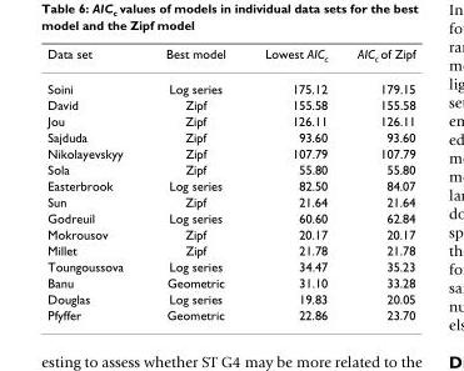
<table><thead><tr><td>Data set</td><td>Best model</td><td>Lowest AIC<sub>c</sub></td><td>AIC<sub>c</sub> of Zipf</td></tr></thead><tbody><tr><td>Soini</td><td>Log series</td><td>175.12</td><td>179.15</td></tr><tr><td>David</td><td>Zipf</td><td>155.58</td><td>155.58</td></tr><tr><td>Jou</td><td>Zipf</td><td>126.11</td><td>126.11</td></tr><tr><td>Sajduda</td><td>Zipf</td><td>93.60</td><td>93.60</td></tr><tr><td>Nikolayevskyy</td><td>Zipf</td><td>107.79</td><td>107.79</td></tr><tr><td>Sola</td><td>Zipf</td><td>55.80</td><td>55.80</td></tr><tr><td>Easterbrook</td><td>Log series</td><td>82.50</td><td>84.07</td></tr><tr><td>Sun</td><td>Zipf</td><td>21.64</td><td>21.64</td></tr><tr><td>Godreuil</td><td>Log series</td><td>60.60</td><td>62.84</td></tr><tr><td>Mokrousov</td><td>Zipf</td><td>20.17</td><td>20.17</td></tr><tr><td>Millet</td><td>Zipf</td><td>21.78</td><td>21.78</td></tr><tr><td>Toungoussova</td><td>Log series</td><td>34.47</td><td>35.23</td></tr><tr><td>Banu</td><td>Geometric</td><td>31.10</td><td>33.28</td></tr><tr><td>Douglas</td><td>Log series</td><td>19.83</td><td>20.05</td></tr><tr><td>Pfyffer</td><td>Geometric</td><td>22.86</td><td>23.70</td></tr></tbody></table>